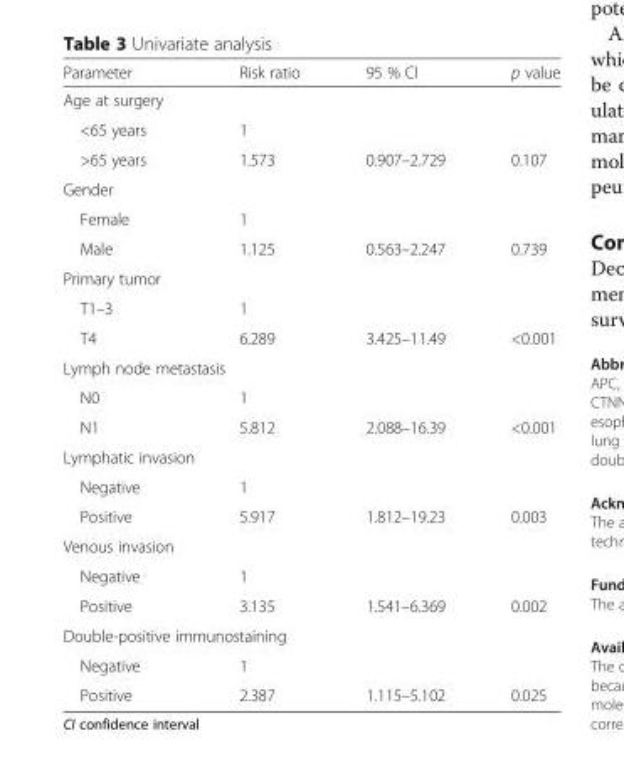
<table><thead><tr><td>Parameter</td><td>Risk ratio</td><td>95 % CI</td><td>p value</td></tr></thead><tbody><tr><td colspan="4">Age at surgery</td></tr><tr><td>&lt;65 years</td><td>1</td><td></td><td></td></tr><tr><td>&gt;65 years</td><td>1.573</td><td>0.907–2.729</td><td>0.107</td></tr><tr><td colspan="4">Gender</td></tr><tr><td>Female</td><td>1</td><td></td><td></td></tr><tr><td>Male</td><td>1.125</td><td>0.563–2.247</td><td>0.739</td></tr><tr><td colspan="4">Primary tumor</td></tr><tr><td>T1–3</td><td>1</td><td></td><td></td></tr><tr><td>T4</td><td>6.289</td><td>3.425–11.49</td><td>&lt;0.001</td></tr><tr><td colspan="4">Lymph node metastasis</td></tr><tr><td>N0</td><td>1</td><td></td><td></td></tr><tr><td>N1</td><td>5.812</td><td>2.088–16.39</td><td>&lt;0.001</td></tr><tr><td colspan="4">Lymphatic invasion</td></tr><tr><td>Negative</td><td>1</td><td></td><td></td></tr><tr><td>Positive</td><td>5.917</td><td>1.812–19.23</td><td>0.003</td></tr><tr><td colspan="4">Venous invasion</td></tr><tr><td>Negative</td><td>1</td><td></td><td></td></tr><tr><td>Positive</td><td>3.135</td><td>1.541–6.369</td><td>0.002</td></tr><tr><td colspan="4">Double-positive immunostaining</td></tr><tr><td>Negative</td><td>1</td><td></td><td></td></tr><tr><td>Positive</td><td>2.387</td><td>1.115–5.102</td><td>0.025</td></tr></tbody></table>